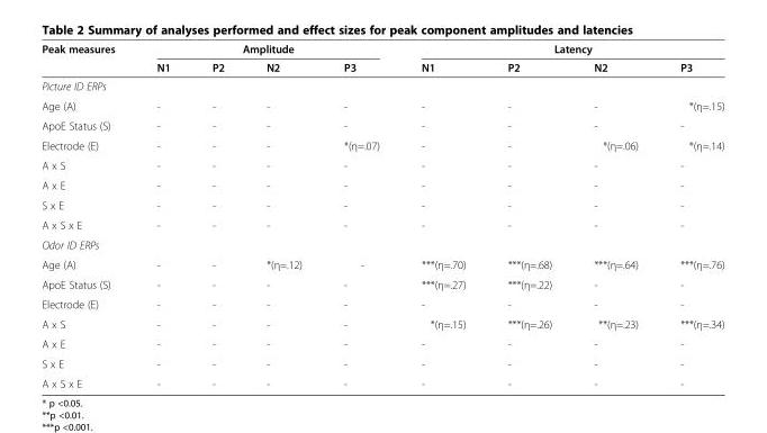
<table><thead><tr><td rowspan="2">Peak measures</td><td colspan="4">Amplitude</td><td colspan="4">Latency</td></tr><tr><td>N1</td><td>P2</td><td>N2</td><td>P3</td><td>N1</td><td>P2</td><td>N2</td><td>P3</td></tr></thead><tbody><tr><td colspan="9">Picture ID ERPs</td></tr><tr><td>Age (A)</td><td>-</td><td>-</td><td>-</td><td>-</td><td>-</td><td>-</td><td>-</td><td>*(η=.15)</td></tr><tr><td>ApoE Status (S)</td><td>-</td><td>-</td><td>-</td><td>-</td><td>-</td><td>-</td><td>-</td><td>-</td></tr><tr><td>Electrode (E)</td><td>-</td><td>-</td><td>-</td><td>*(η=.07)</td><td>-</td><td>-</td><td>*(η=.06)</td><td>*(η=.14)</td></tr><tr><td>A x S</td><td>-</td><td>-</td><td>-</td><td>-</td><td>-</td><td>-</td><td>-</td><td>-</td></tr><tr><td>A x E</td><td>-</td><td>-</td><td>-</td><td>-</td><td>-</td><td>-</td><td>-</td><td>-</td></tr><tr><td>S x E</td><td>-</td><td>-</td><td>-</td><td>-</td><td>-</td><td>-</td><td>-</td><td>-</td></tr><tr><td>A x S x E</td><td>-</td><td>-</td><td>-</td><td>-</td><td>-</td><td>-</td><td>-</td><td>-</td></tr><tr><td colspan="9">Odor ID ERPs</td></tr><tr><td>Age (A)</td><td>-</td><td>-</td><td>*(η=.12)</td><td>-</td><td>***(η=.70)</td><td>***(η=.68)</td><td>***(η=.64)</td><td>***(η=.76)</td></tr><tr><td>ApoE Status (S)</td><td>-</td><td>-</td><td>-</td><td>-</td><td>***(η=.27)</td><td>***(η=.22)</td><td>-</td><td>-</td></tr><tr><td>Electrode (E)</td><td>-</td><td>-</td><td>-</td><td>-</td><td>-</td><td>-</td><td>-</td><td>-</td></tr><tr><td>A x S</td><td>-</td><td>-</td><td>-</td><td>-</td><td>*(η=.15)</td><td>***(η=.26)</td><td>**(η=.23)</td><td>***(η=.34)</td></tr><tr><td>A x E</td><td>-</td><td>-</td><td>-</td><td>-</td><td>-</td><td>-</td><td>-</td><td>-</td></tr><tr><td>S x E</td><td>-</td><td>-</td><td>-</td><td>-</td><td>-</td><td>-</td><td>-</td><td>-</td></tr><tr><td>A x S x E</td><td>-</td><td>-</td><td>-</td><td>-</td><td>-</td><td>-</td><td>-</td><td>-</td></tr></tbody></table>